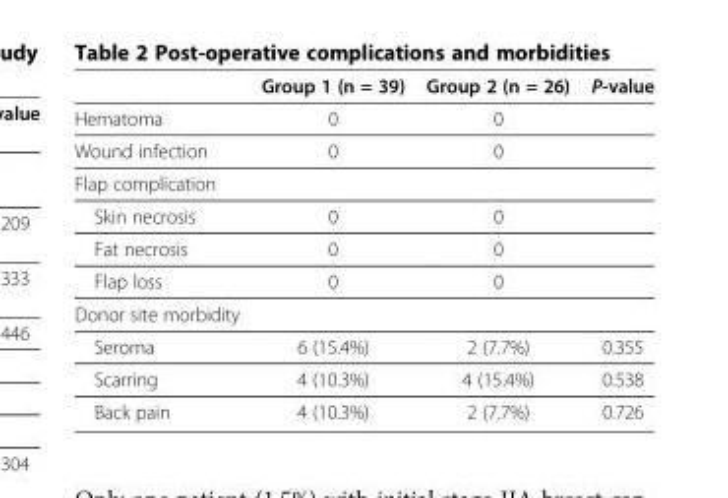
<table><thead><tr><td></td><td>Group 1 (n = 39)</td><td>Group 2 (n = 26)</td><td>P-value</td></tr></thead><tbody><tr><td>Hematoma</td><td>0</td><td>0</td><td></td></tr><tr><td>Wound infection</td><td>0</td><td>0</td><td></td></tr><tr><td colspan="4">Flap complication</td></tr><tr><td>Skin necrosis</td><td>0</td><td>0</td><td></td></tr><tr><td>Fat necrosis</td><td>0</td><td>0</td><td></td></tr><tr><td>Flap loss</td><td>0</td><td>0</td><td></td></tr><tr><td colspan="4">Donor site morbidity</td></tr><tr><td>Seroma</td><td>6 (15.4%)</td><td>2 (7.7%)</td><td>0.355</td></tr><tr><td>Scarring</td><td>4 (10.3%)</td><td>4 (15.4%)</td><td>0.538</td></tr><tr><td>Back pain</td><td>4 (10.3%)</td><td>2 (7.7%)</td><td>0.726</td></tr></tbody></table>